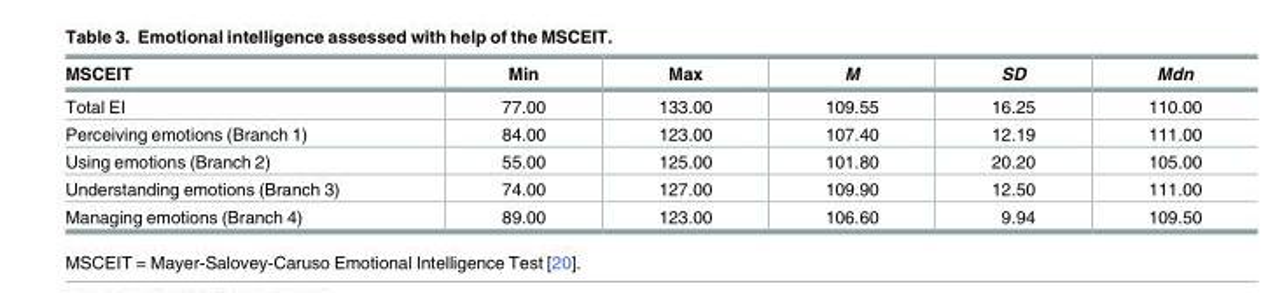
<table><thead><tr><td>MSCEIT</td><td>Min</td><td>Max</td><td>M</td><td>SD</td><td>Mdn</td></tr></thead><tbody><tr><td>Total EI</td><td>77.00</td><td>133.00</td><td>109.55</td><td>16.25</td><td>110.00</td></tr><tr><td>Perceiving emotions (Branch 1)</td><td>84.00</td><td>123.00</td><td>107.40</td><td>12.19</td><td>111.00</td></tr><tr><td>Using emotions (Branch 2)</td><td>55.00</td><td>125.00</td><td>101.80</td><td>20.20</td><td>105.00</td></tr><tr><td>Understanding emotions (Branch 3)</td><td>74.00</td><td>127.00</td><td>109.90</td><td>12.50</td><td>111.00</td></tr><tr><td>Managing emotions (Branch 4)</td><td>89.00</td><td>123.00</td><td>106.60</td><td>9.94</td><td>109.50</td></tr></tbody></table>